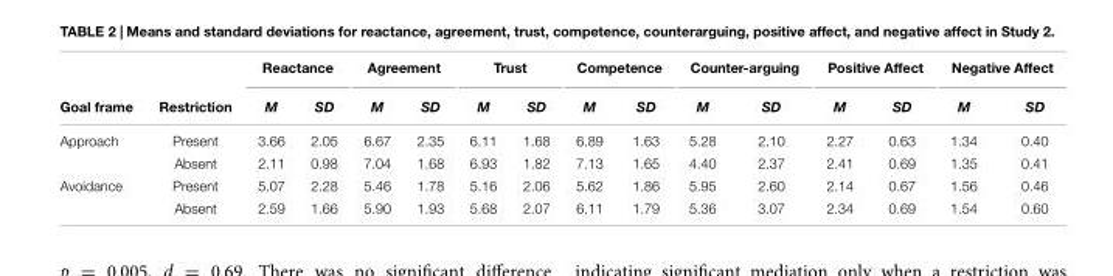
<table><thead><tr><td rowspan="2">Goal frame</td><td rowspan="2">Restriction</td><td colspan="2">Reactance</td><td colspan="2">Agreement</td><td colspan="2">Trust</td><td colspan="2">Competence</td><td colspan="2">Counter-arguing</td><td colspan="2">Positive Affect</td><td colspan="2">Negative Affect</td></tr><tr><td>M</td><td>SD</td><td>M</td><td>SD</td><td>M</td><td>SD</td><td>M</td><td>SD</td><td>M</td><td>SD</td><td>M</td><td>SD</td><td>M</td><td>SD</td></tr></thead><tbody><tr><td rowspan="2">Approach</td><td>Present</td><td>3.66</td><td>2.05</td><td>6.67</td><td>2.35</td><td>6.11</td><td>1.68</td><td>6.89</td><td>1.63</td><td>5.28</td><td>2.10</td><td>2.27</td><td>0.63</td><td>1.34</td><td>0.40</td></tr><tr><td>Absent</td><td>2.11</td><td>0.98</td><td>7.04</td><td>1.68</td><td>6.93</td><td>1.82</td><td>7.13</td><td>1.65</td><td>4.40</td><td>2.37</td><td>2.41</td><td>0.69</td><td>1.35</td><td>0.41</td></tr><tr><td rowspan="2">Avoidance</td><td>Present</td><td>5.07</td><td>2.28</td><td>5.46</td><td>1.78</td><td>5.16</td><td>2.06</td><td>5.62</td><td>1.86</td><td>5.95</td><td>2.60</td><td>2.14</td><td>0.67</td><td>1.56</td><td>0.46</td></tr><tr><td>Absent</td><td>2.59</td><td>1.66</td><td>5.90</td><td>1.93</td><td>5.68</td><td>2.07</td><td>6.11</td><td>1.79</td><td>5.36</td><td>3.07</td><td>2.34</td><td>0.69</td><td>1.54</td><td>0.60</td></tr></tbody></table>